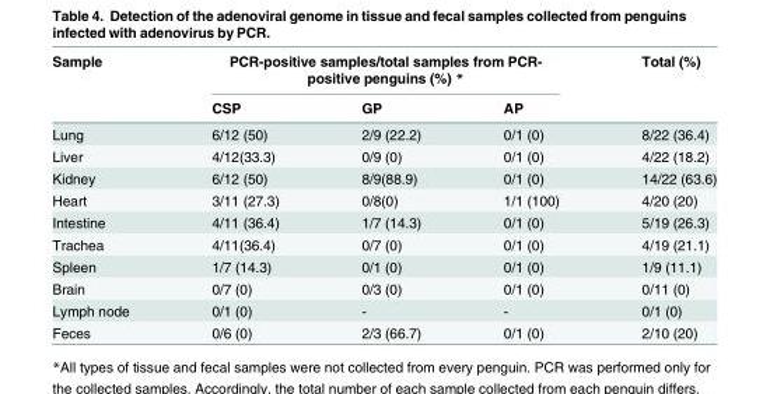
<table><thead><tr><td rowspan="2">Sample</td><td colspan="3">PCR-positive samples/total samples from PCR- positive penguins (%) *</td><td rowspan="2">Total (%)</td></tr><tr><td>CSP</td><td>GP</td><td>AP</td></tr></thead><tbody><tr><td>Lung</td><td>6/12 (50)</td><td>2/9 (22.2)</td><td>0/1 (0)</td><td>8/22 (36.4)</td></tr><tr><td>Liver</td><td>4/12(33.3)</td><td>0/9 (0)</td><td>0/1 (0)</td><td>4/22 (18.2)</td></tr><tr><td>Kidney</td><td>6/12 (50)</td><td>8/9(88.9)</td><td>0/1 (0)</td><td>14/22 (63.6)</td></tr><tr><td>Heart</td><td>3/11 (27.3)</td><td>0/8(0)</td><td>1/1 (100)</td><td>4/20 (20)</td></tr><tr><td>Intestine</td><td>4/11 (36.4)</td><td>1/7 (14.3)</td><td>0/1 (0)</td><td>5/19 (26.3)</td></tr><tr><td>Trachea</td><td>4/11(36.4)</td><td>0/7 (0)</td><td>0/1 (0)</td><td>4/19 (21.1)</td></tr><tr><td>Spleen</td><td>1/7 (14.3)</td><td>0/1 (0)</td><td>0/1 (0)</td><td>1/9 (11.1)</td></tr><tr><td>Brain</td><td>0/7 (0)</td><td>0/3 (0)</td><td>0/1 (0)</td><td>0/11 (0)</td></tr><tr><td>Lymph node</td><td>0/1 (0)</td><td>-</td><td>-</td><td>0/1 (0)</td></tr><tr><td>Feces</td><td>0/6 (0)</td><td>2/3 (66.7)</td><td>0/1 (0)</td><td>2/10 (20)</td></tr></tbody></table>